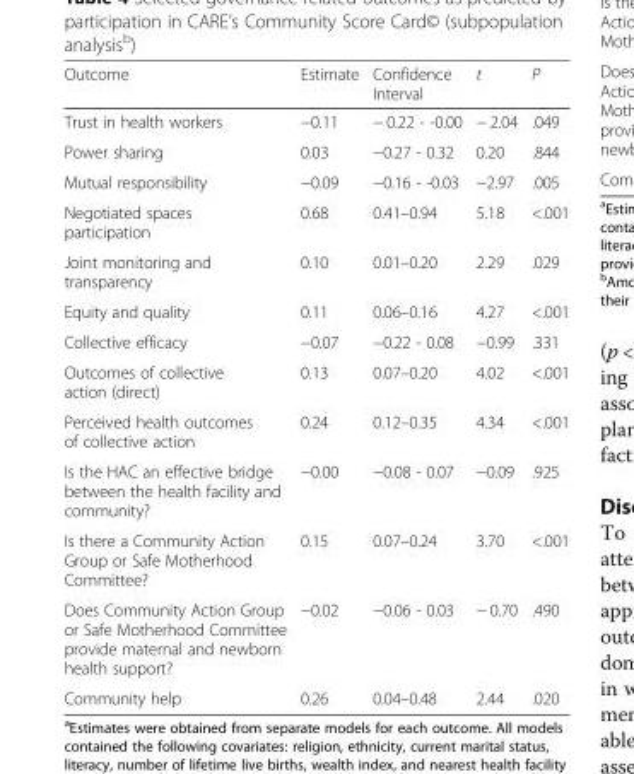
<table><thead><tr><td>Outcome</td><td>Estimate</td><td>Confidence Interval</td><td>t</td><td>P</td></tr></thead><tbody><tr><td>Trust in health workers</td><td>−0.11</td><td>− 0.22 - -0.00</td><td>− 2.04</td><td>.049</td></tr><tr><td>Power sharing</td><td>0.03</td><td>−0.27 - 0.32</td><td>0.20</td><td>.844</td></tr><tr><td>Mutual responsibility</td><td>−0.09</td><td>−0.16 - -0.03</td><td>−2.97</td><td>.005</td></tr><tr><td>Negotiated spaces participation</td><td>0.68</td><td>0.41–0.94</td><td>5.18</td><td>&lt;.001</td></tr><tr><td>Joint monitoring and transparency</td><td>0.10</td><td>0.01–0.20</td><td>2.29</td><td>.029</td></tr><tr><td>Equity and quality</td><td>0.11</td><td>0.06–0.16</td><td>4.27</td><td>&lt;.001</td></tr><tr><td>Collective efficacy</td><td>−0.07</td><td>−0.22 - 0.08</td><td>−0.99</td><td>.331</td></tr><tr><td>Outcomes of collective action (direct)</td><td>0.13</td><td>0.07–0.20</td><td>4.02</td><td>&lt;.001</td></tr><tr><td>Perceived health outcomes of collective action</td><td>0.24</td><td>0.12–0.35</td><td>4.34</td><td>&lt;.001</td></tr><tr><td>Is the HAC an effective bridge between the health facility and community?</td><td>−0.00</td><td>−0.08 - 0.07</td><td>−0.09</td><td>.925</td></tr><tr><td>Is there a Community Action Group or Safe Motherhood Committee?</td><td>0.15</td><td>0.07–0.24</td><td>3.70</td><td>&lt;.001</td></tr><tr><td>Does Community Action Group or Safe Motherhood Committee provide maternal and newborn health support?</td><td>−0.02</td><td>−0.06 - 0.03</td><td>− 0.70</td><td>.490</td></tr><tr><td>Community help</td><td>0.26</td><td>0.04–0.48</td><td>2.44</td><td>.020</td></tr></tbody></table>